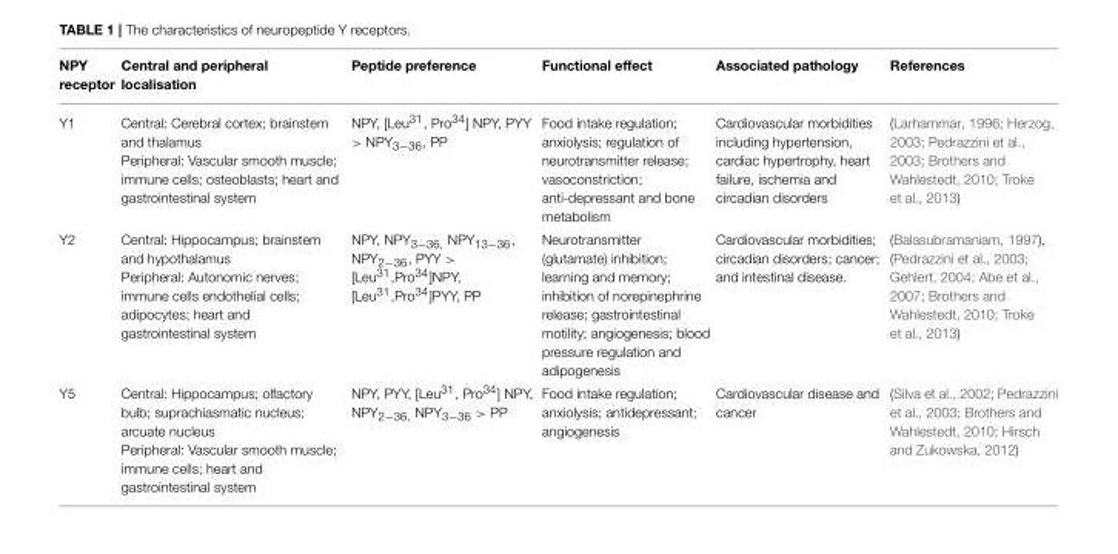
<table><thead><tr><td>NPY receptor</td><td>Central and peripheral localisation</td><td>Peptide preference</td><td>Functional effect</td><td>Associated pathology</td><td>References</td></tr></thead><tbody><tr><td>Y1</td><td>Central: Cerebral cortex; brainstem and thalamus Peripheral: Vascular smooth muscle; immune cells; osteoblasts; heart and gastrointestinal system</td><td>NPY, [Leu<sup>31</sup>, Pro<sup>34</sup>] NPY, PYY &gt; NPY<sub>3−36</sub>, PP</td><td>Food intake regulation; anxiolysis; regulation of neurotransmitter release; vasoconstriction; anti-depressant and bone metabolism</td><td>Cardiovascular morbidities including hypertension, cardiac hypertrophy, heart failure, ischemia and circadian disorders</td><td>(Larhammar, 1996; Herzog, 2003; Pedrazzini et al., 2003; Brothers and Wahlestedt, 2010; Troke et al., 2013)</td></tr><tr><td>Y2</td><td>Central: Hippocampus; brainstem and hypothalamus Peripheral: Autonomic nerves; immune cells endothelial cells; adipocytes; heart and gastrointestinal system</td><td>NPY, NPY<sub>3−36</sub>, NPY<sub>13−36</sub>, NPY<sub>2−36</sub>, PYY &gt; [Leu<sup>31</sup>,Pro<sup>34</sup>]NPY, [Leu<sup>31</sup>,Pro<sup>34</sup>]PYY, PP</td><td>Neurotransmitter (glutamate) inhibition; learning and memory; inhibition of norepinephrine release; gastrointestinal motility; angiogenesis; blood pressure regulation and adipogenesis</td><td>Cardiovascular morbidities; circadian disorders; cancer; and intestinal disease.</td><td>(Balasubramaniam, 1997), (Pedrazzini et al., 2003; Gehlert, 2004; Abe et al., 2007; Brothers and Wahlestedt, 2010; Troke et al., 2013)</td></tr><tr><td>Y5</td><td>Central: Hippocampus; olfactory bulb; suprachiasmatic nucleus; arcuate nucleus Peripheral: Vascular smooth muscle; immune cells; heart and gastrointestinal system</td><td>NPY, PYY, [Leu<sup>31</sup>, Pro<sup>34</sup>] NPY, NPY<sub>2−36</sub>, NPY<sub>3−36</sub> &gt; PP</td><td>Food intake regulation; anxiolysis; antidepressant; angiogenesis</td><td>Cardiovascular disease and cancer</td><td>(Silva et al., 2002; Pedrazzini et al., 2003; Brothers and Wahlestedt, 2010; Hirsch and Zukowska, 2012)</td></tr></tbody></table>